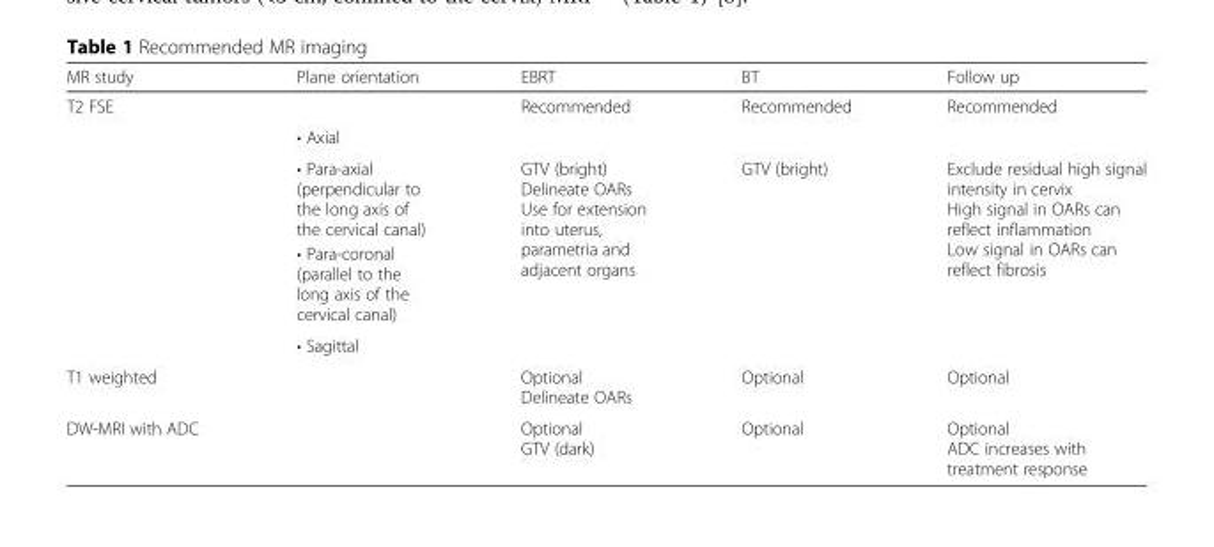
<table><thead><tr><td>MR study</td><td>Plane orientation</td><td>EBRT</td><td>BT</td><td>Follow up</td></tr></thead><tbody><tr><td rowspan="5">T2 FSE</td><td></td><td>Recommended</td><td>Recommended</td><td>Recommended</td></tr><tr><td>• Axial</td><td></td><td></td><td></td></tr><tr><td>• Para-axial (perpendicular to the long axis of the cervical canal)</td><td rowspan="3">GTV (bright) Delineate OARs Use for extension into uterus, parametria and adjacent organs</td><td rowspan="3">GTV (bright)</td><td rowspan="3">Exclude residual high signal intensity in cervix High signal in OARs can reflect inflammation Low signal in OARs can reflect fibrosis</td></tr><tr><td>• Para-coronal (parallel to the long axis of the cervical canal)</td></tr><tr><td>• Sagittal</td></tr><tr><td>T1 weighted</td><td></td><td>Optional Delineate OARs</td><td>Optional</td><td>Optional</td></tr><tr><td>DW-MRI with ADC</td><td></td><td>Optional GTV (dark)</td><td>Optional</td><td>Optional ADC increases with treatment response</td></tr></tbody></table>